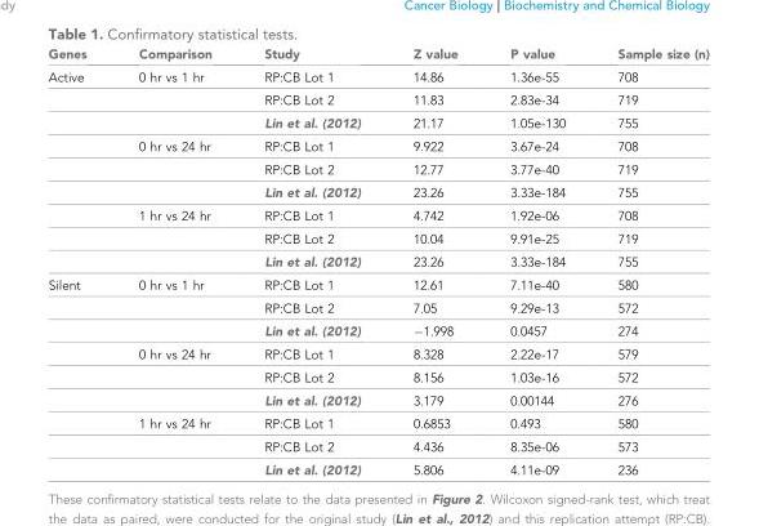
<table><thead><tr><td>Genes</td><td>Comparison</td><td>Study</td><td>Z value</td><td>P value</td><td>Sample size (n)</td></tr></thead><tbody><tr><td rowspan="9">Active</td><td>0 hr vs 1 hr</td><td>RP:CB Lot 1</td><td>14.86</td><td>1.36e-55</td><td>708</td></tr><tr><td></td><td>RP:CB Lot 2</td><td>11.83</td><td>2.83e-34</td><td>719</td></tr><tr><td></td><td>Lin et al. (2012)</td><td>21.17</td><td>1.05e-130</td><td>755</td></tr><tr><td>0 hr vs 24 hr</td><td>RP:CB Lot 1</td><td>9.922</td><td>3.67e-24</td><td>708</td></tr><tr><td></td><td>RP:CB Lot 2</td><td>12.77</td><td>3.77e-40</td><td>719</td></tr><tr><td></td><td>Lin et al. (2012)</td><td>23.26</td><td>3.33e-184</td><td>755</td></tr><tr><td>1 hr vs 24 hr</td><td>RP:CB Lot 1</td><td>4.742</td><td>1.92e-06</td><td>708</td></tr><tr><td></td><td>RP:CB Lot 2</td><td>10.04</td><td>9.91e-25</td><td>719</td></tr><tr><td></td><td>Lin et al. (2012)</td><td>23.26</td><td>3.33e-184</td><td>755</td></tr><tr><td rowspan="9">Silent</td><td>0 hr vs 1 hr</td><td>RP:CB Lot 1</td><td>12.61</td><td>7.11e-40</td><td>580</td></tr><tr><td></td><td>RP:CB Lot 2</td><td>7.05</td><td>9.29e-13</td><td>572</td></tr><tr><td></td><td>Lin et al. (2012)</td><td>−1.998</td><td>0.0457</td><td>274</td></tr><tr><td>0 hr vs 24 hr</td><td>RP:CB Lot 1</td><td>8.328</td><td>2.22e-17</td><td>579</td></tr><tr><td></td><td>RP:CB Lot 2</td><td>8.156</td><td>1.03e-16</td><td>572</td></tr><tr><td></td><td>Lin et al. (2012)</td><td>3.179</td><td>0.00144</td><td>276</td></tr><tr><td>1 hr vs 24 hr</td><td>RP:CB Lot 1</td><td>0.6853</td><td>0.493</td><td>580</td></tr><tr><td></td><td>RP:CB Lot 2</td><td>4.436</td><td>8.35e-06</td><td>573</td></tr><tr><td></td><td>Lin et al. (2012)</td><td>5.806</td><td>4.11e-09</td><td>236</td></tr></tbody></table>